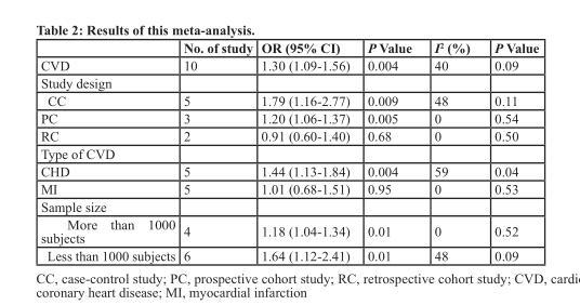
<table><thead><tr><td></td><td>no. of study</td><td>or (95% cI)</td><td>P Value</td><td>I<sup>2</sup> (%)</td><td>P Value</td></tr></thead><tbody><tr><td>CVD</td><td>10</td><td>1.30 (1.09-1.56)</td><td>0.004</td><td>40</td><td>0.09</td></tr><tr><td colspan="6">Study design</td></tr><tr><td>CC</td><td>5</td><td>1.79 (1.16-2.77)</td><td>0.009</td><td>48</td><td>0.11</td></tr><tr><td>PC</td><td>3</td><td>1.20 (1.06-1.37)</td><td>0.005</td><td>0</td><td>0.54</td></tr><tr><td>RC</td><td>2</td><td>0.91 (0.60-1.40)</td><td>0.68</td><td>0</td><td>0.50</td></tr><tr><td colspan="6">Type of CVD</td></tr><tr><td>CHD</td><td>5</td><td>1.44 (1.13-1.84)</td><td>0.004</td><td>59</td><td>0.04</td></tr><tr><td>MI</td><td>5</td><td>1.01 (0.68-1.51)</td><td>0.95</td><td>0</td><td>0.53</td></tr><tr><td colspan="6">Sample size</td></tr><tr><td>More than 1000 subjects</td><td>4</td><td>1.18 (1.04-1.34)</td><td>0.01</td><td>0</td><td>0.52</td></tr><tr><td>Less than 1000 subjects</td><td>6</td><td>1.64 (1.12-2.41)</td><td>0.01</td><td>48</td><td>0.09</td></tr></tbody></table>